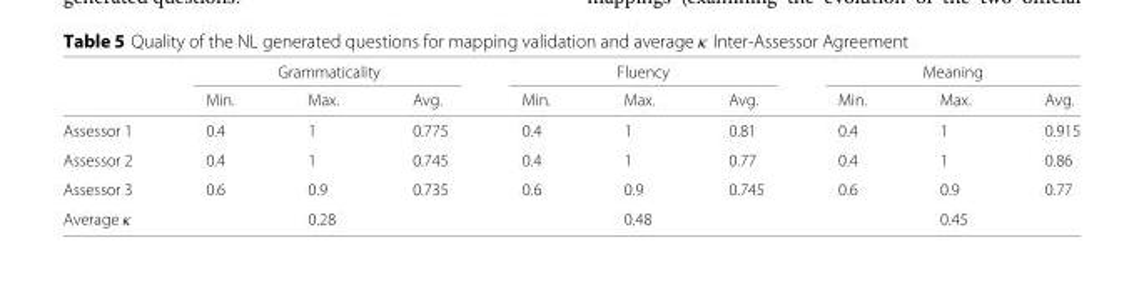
<table><thead><tr><td rowspan="2"></td><td colspan="3">Grammaticality</td><td colspan="3">Fluency</td><td colspan="3">Meaning</td></tr><tr><td>Min.</td><td>Max.</td><td>Avg.</td><td>Min.</td><td>Max.</td><td>Avg.</td><td>Min.</td><td>Max.</td><td>Avg.</td></tr></thead><tbody><tr><td>Assessor 1</td><td>0.4</td><td>1</td><td>0.775</td><td>0.4</td><td>1</td><td>0.81</td><td>0.4</td><td>1</td><td>0.915</td></tr><tr><td>Assessor 2</td><td>0.4</td><td>1</td><td>0.745</td><td>0.4</td><td>1</td><td>0.77</td><td>0.4</td><td>1</td><td>0.86</td></tr><tr><td>Assessor 3</td><td>0.6</td><td>0.9</td><td>0.735</td><td>0.6</td><td>0.9</td><td>0.745</td><td>0.6</td><td>0.9</td><td>0.77</td></tr><tr><td>Average κ</td><td></td><td>0.28</td><td></td><td></td><td>0.48</td><td></td><td></td><td>0.45</td><td></td></tr></tbody></table>